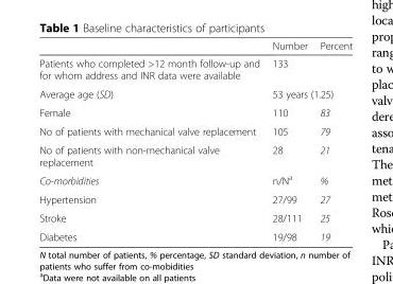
<table><thead><tr><td></td><td>Number</td><td>Percent</td></tr></thead><tbody><tr><td>Patients who completed &gt;12 month follow-up and for whom address and INR data were available</td><td>133</td><td></td></tr><tr><td>Average age (SD)</td><td colspan="2">53 years (1.25)</td></tr><tr><td>Female</td><td>110</td><td>83</td></tr><tr><td>No of patients with mechanical valve replacement</td><td>105</td><td>79</td></tr><tr><td>No of patients with non-mechanical valve replacement</td><td>28</td><td>21</td></tr><tr><td>Co-morbidities</td><td>n/N<sup>a</sup></td><td>%</td></tr><tr><td>Hypertension</td><td>27/99</td><td>27</td></tr><tr><td>Stroke</td><td>28/111</td><td>25</td></tr><tr><td>Diabetes</td><td>19/98</td><td>19</td></tr></tbody></table>